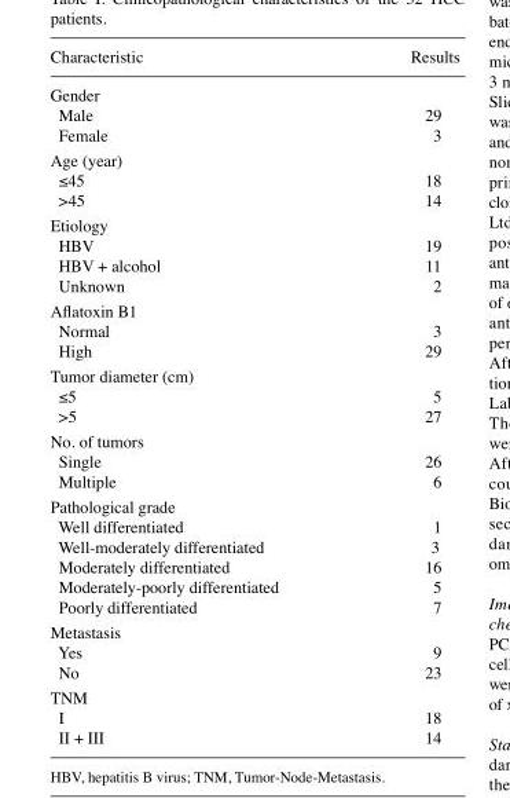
<table><thead><tr><td>Characteristic</td><td>Results</td></tr></thead><tbody><tr><td colspan="2">Gender</td></tr><tr><td>Male</td><td>29</td></tr><tr><td>Female</td><td>3</td></tr><tr><td colspan="2">Age (year)</td></tr><tr><td>≤45</td><td>18</td></tr><tr><td>&gt;45</td><td>14</td></tr><tr><td colspan="2">Etiology</td></tr><tr><td>HBV</td><td>19</td></tr><tr><td>HBV + alcohol</td><td>11</td></tr><tr><td>Unknown</td><td>2</td></tr><tr><td colspan="2">Aflatoxin B1</td></tr><tr><td>Normal</td><td>3</td></tr><tr><td>High</td><td>29</td></tr><tr><td colspan="2">Tumor diameter (cm)</td></tr><tr><td>≤5</td><td>5</td></tr><tr><td>&gt;5</td><td>27</td></tr><tr><td colspan="2">No. of tumors</td></tr><tr><td>Single</td><td>26</td></tr><tr><td>Multiple</td><td>6</td></tr><tr><td colspan="2">Pathological grade</td></tr><tr><td>Well differentiated</td><td>1</td></tr><tr><td>Well-moderately differentiated</td><td>3</td></tr><tr><td>Moderately differentiated</td><td>16</td></tr><tr><td>Moderately-poorly differentiated</td><td>5</td></tr><tr><td>Poorly differentiated</td><td>7</td></tr><tr><td colspan="2">Metastasis</td></tr><tr><td>Yes</td><td>9</td></tr><tr><td>No</td><td>23</td></tr><tr><td colspan="2">TNM</td></tr><tr><td>Ⅰ</td><td>18</td></tr><tr><td>Ⅱ + Ⅲ</td><td>14</td></tr></tbody></table>